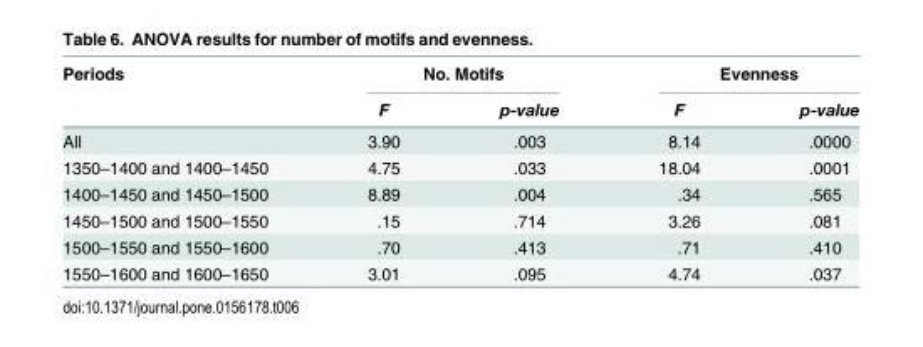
<table><thead><tr><td rowspan="2">Periods</td><td colspan="2">No. Motifs</td><td colspan="2">Evenness</td></tr><tr><td>F</td><td>p-value</td><td>F</td><td>p-value</td></tr></thead><tbody><tr><td>All</td><td>3.90</td><td>.003</td><td>8.14</td><td>.0000</td></tr><tr><td>1350–1400 and 1400–1450</td><td>4.75</td><td>.033</td><td>18.04</td><td>.0001</td></tr><tr><td>1400–1450 and 1450–1500</td><td>8.89</td><td>.004</td><td>.34</td><td>.565</td></tr><tr><td>1450–1500 and 1500–1550</td><td>.15</td><td>.714</td><td>3.26</td><td>.081</td></tr><tr><td>1500–1550 and 1550–1600</td><td>.70</td><td>.413</td><td>.71</td><td>.410</td></tr><tr><td>1550–1600 and 1600–1650</td><td>3.01</td><td>.095</td><td>4.74</td><td>.037</td></tr></tbody></table>